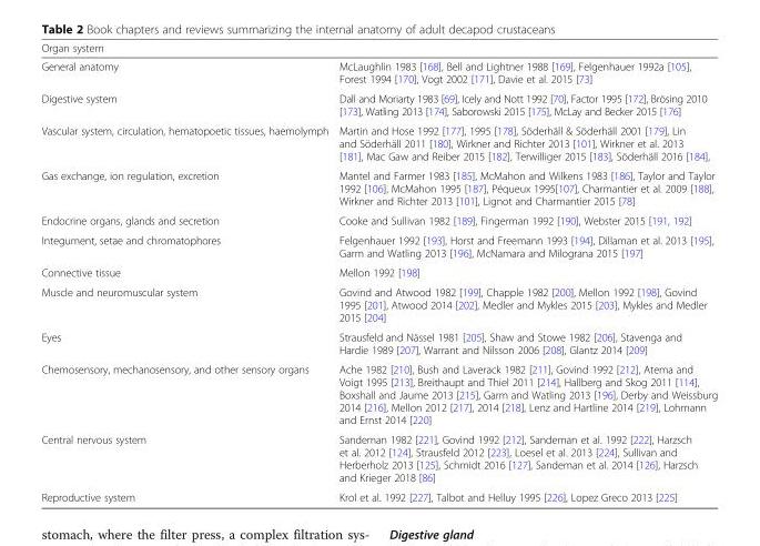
<table><thead><tr><td colspan="2">Organ system</td></tr><tr><td>General anatomy</td><td>McLaughlin 1983 [168], Bell and Lightner 1988 [169], Felgenhauer 1992a [105], Forest 1994 [170], Vogt 2002 [171], Davie et al. 2015 [73]</td></tr></thead><tbody><tr><td>Digestive system</td><td>Dall and Moriarty 1983 [69], Icely and Nott 1992 [70], Factor 1995 [172], Brösing 2010 [173], Watling 2013 [174], Saborowski 2015 [175], McLay and Becker 2015 [176]</td></tr><tr><td>Vascular system, circulation, hematopoetic tissues, haemolymph</td><td>Martin and Hose 1992 [177], 1995 [178], Söderhäll &amp; Söderhäll 2001 [179], Lin and Söderhäll 2011 [180], Wirkner and Richter 2013 [101], Wirkner et al. 2013 [181], Mac Gaw and Reiber 2015 [182], Terwilliger 2015 [183], Söderhäll 2016 [184],</td></tr><tr><td>Gas exchange, ion regulation, excretion</td><td>Mantel and Farmer 1983 [185], McMahon and Wilkens 1983 [186], Taylor and Taylor 1992 [106], McMahon 1995 [187], Péqueux 1995[107], Charmantier et al. 2009 [188], Wirkner and Richter 2013 [101], Lignot and Charmantier 2015 [78]</td></tr><tr><td>Endocrine organs, glands and secretion</td><td>Cooke and Sullivan 1982 [189], Fingerman 1992 [190], Webster 2015 [191, 192]</td></tr><tr><td>Integument, setae and chromatophores</td><td>Felgenhauer 1992 [193], Horst and Freemann 1993 [194], Dillaman et al. 2013 [195], Garm and Watling 2013 [196], McNamara and Milograna 2015 [197]</td></tr><tr><td>Connective tissue</td><td>Mellon 1992 [198]</td></tr><tr><td>Muscle and neuromuscular system</td><td>Govind and Atwood 1982 [199], Chapple 1982 [200], Mellon 1992 [198], Govind 1995 [201], Atwood 2014 [202], Medler and Mykles 2015 [203], Mykles and Medler 2015 [204]</td></tr><tr><td>Eyes</td><td>Strausfeld and Nässel 1981 [205], Shaw and Stowe 1982 [206], Stavenga and Hardie 1989 [207], Warrant and Nilsson 2006 [208], Glantz 2014 [209]</td></tr><tr><td>Chemosensory, mechanosensory, and other sensory organs</td><td>Ache 1982 [210], Bush and Laverack 1982 [211], Govind 1992 [212], Atema and Voigt 1995 [213], Breithaupt and Thiel 2011 [214], Hallberg and Skog 2011 [114], Boxshall and Jaume 2013 [215], Garm and Watling 2013 [196], Derby and Weissburg 2014 [216], Mellon 2012 [217], 2014 [218], Lenz and Hartline 2014 [219], Lohmann and Ernst 2014 [220]</td></tr><tr><td>Central nervous system</td><td>Sandeman 1982 [221], Govind 1992 [212], Sandeman et al. 1992 [222], Harzsch et al. 2012 [124], Strausfeld 2012 [223], Loesel et al. 2013 [224], Sullivan and Herberholz 2013 [125], Schmidt 2016 [127], Sandeman et al. 2014 [126], Harzsch and Krieger 2018 [86]</td></tr><tr><td>Reproductive system</td><td>Krol et al. 1992 [227], Talbot and Helluy 1995 [226], Lopez Greco 2013 [225]</td></tr></tbody></table>